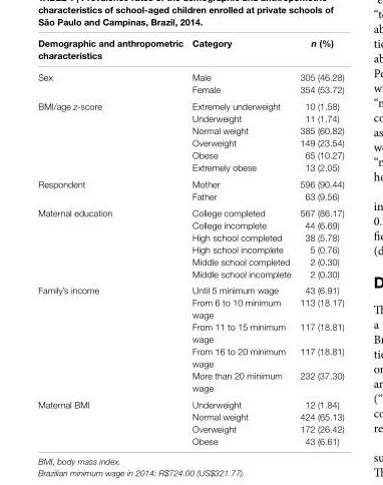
<table><thead><tr><td>Demographic and anthropometric characteristics</td><td>category</td><td>n (%)</td></tr></thead><tbody><tr><td rowspan="2">Sex</td><td>Male</td><td>305 (46.28)</td></tr><tr><td>Female</td><td>354 (53.72)</td></tr><tr><td rowspan="6">BMI/age z-score</td><td>Extremely underweight</td><td>10 (1.58)</td></tr><tr><td>Underweight</td><td>11 (1.74)</td></tr><tr><td>Normal weight</td><td>385 (60.82)</td></tr><tr><td>Overweight</td><td>149 (23.54)</td></tr><tr><td>Obese</td><td>65 (10.27)</td></tr><tr><td>Extremely obese</td><td>13 (2.05)</td></tr><tr><td rowspan="2">Respondent</td><td>Mother</td><td>596 (90.44)</td></tr><tr><td>Father</td><td>63 (9.56)</td></tr><tr><td rowspan="6">Maternal education</td><td>College completed</td><td>567 (86.17)</td></tr><tr><td>College incomplete</td><td>44 (6.69)</td></tr><tr><td>High school completed</td><td>38 (5.78)</td></tr><tr><td>High school incomplete</td><td>5 (0.76)</td></tr><tr><td>Middle school completed</td><td>2 (0.30)</td></tr><tr><td>Middle school incomplete</td><td>2 (0.30)</td></tr><tr><td rowspan="5">Family’s income</td><td>Until 5 minimum wage</td><td>43 (6.91)</td></tr><tr><td>From 6 to 10 minimum wage</td><td>113 (18.17)</td></tr><tr><td>From 11 to 15 minimum wage</td><td>117 (18.81)</td></tr><tr><td>From 16 to 20 minimum wage</td><td>117 (18.81)</td></tr><tr><td>More than 20 minimum wage</td><td>232 (37.30)</td></tr><tr><td rowspan="4">Maternal BMI</td><td>Underweight</td><td>12 (1.84)</td></tr><tr><td>Normal weight</td><td>424 (65.13)</td></tr><tr><td>Overweight</td><td>172 (26.42)</td></tr><tr><td>Obese</td><td>43 (6.61)</td></tr></tbody></table>